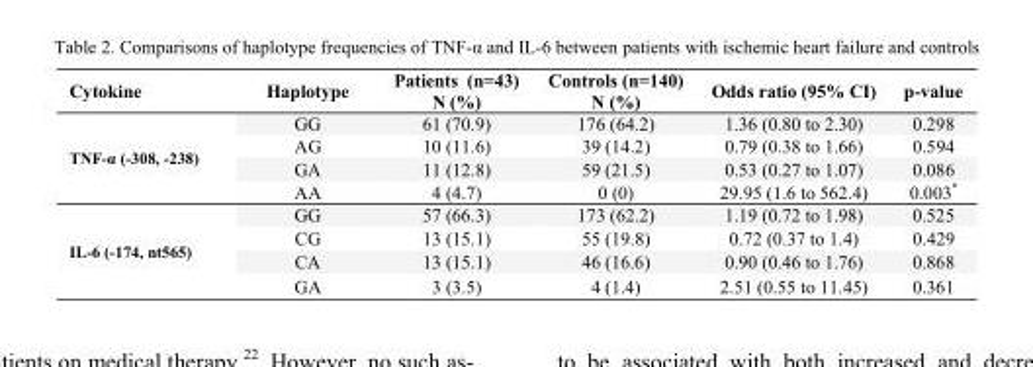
<table><thead><tr><td>Cytokine</td><td>Haplotype</td><td>Patients (n=43) N (%)</td><td>Controls (n=140) N (%)</td><td>Odds ratio (95% CI)</td><td>p-value</td></tr></thead><tbody><tr><td rowspan="4">TNF-α (-308, -238)</td><td>GG</td><td>61 (70.9)</td><td>176 (64.2)</td><td>1.36 (0.80 to 2.30)</td><td>0.298</td></tr><tr><td>AG</td><td>10 (11.6)</td><td>39 (14.2)</td><td>0.79 (0.38 to 1.66)</td><td>0.594</td></tr><tr><td>GA</td><td>11 (12.8)</td><td>59 (21.5)</td><td>0.53 (0.27 to 1.07)</td><td>0.086</td></tr><tr><td>AA</td><td>4 (4.7)</td><td>0 (0)</td><td>29.95 (1.6 to 562.4)</td><td>0.003*</td></tr><tr><td rowspan="4">IL-6 (-174, nt565)</td><td>GG</td><td>57 (66.3)</td><td>173 (62.2)</td><td>1.19 (0.72 to 1.98)</td><td>0.525</td></tr><tr><td>CG</td><td>13 (15.1)</td><td>55 (19.8)</td><td>0.72 (0.37 to 1.4)</td><td>0.429</td></tr><tr><td>CA</td><td>13 (15.1)</td><td>46 (16.6)</td><td>0.90 (0.46 to 1.76)</td><td>0.868</td></tr><tr><td>GA</td><td>3 (3.5)</td><td>4 (1.4)</td><td>2.51 (0.55 to 11.45)</td><td>0.361</td></tr></tbody></table>